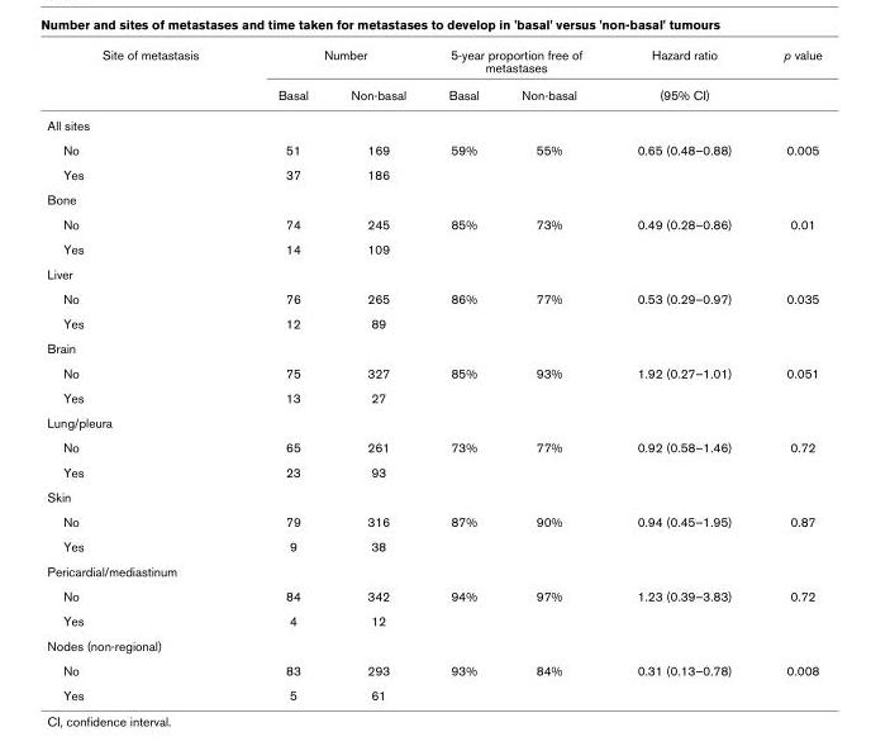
<table><thead><tr><td rowspan="2">Site of metastasis</td><td colspan="2">Number</td><td colspan="2">5-year proportion free of metastases</td><td rowspan="2">Hazard ratio (95% CI)</td><td rowspan="2">p value</td></tr><tr><td>Basal</td><td>Non-basal</td><td>Basal</td><td>Non-basal</td></tr></thead><tbody><tr><td colspan="7">All sites</td></tr><tr><td>No</td><td>51</td><td>169</td><td>59%</td><td>55%</td><td>0.65 (0.48–0.88)</td><td>0.005</td></tr><tr><td>Yes</td><td>37</td><td>186</td><td></td><td></td><td></td><td></td></tr><tr><td colspan="7">Bone</td></tr><tr><td>No</td><td>74</td><td>245</td><td>85%</td><td>73%</td><td>0.49 (0.28–0.86)</td><td>0.01</td></tr><tr><td>Yes</td><td>14</td><td>109</td><td></td><td></td><td></td><td></td></tr><tr><td colspan="7">Liver</td></tr><tr><td>No</td><td>76</td><td>265</td><td>86%</td><td>77%</td><td>0.53 (0.29–0.97)</td><td>0.035</td></tr><tr><td>Yes</td><td>12</td><td>89</td><td></td><td></td><td></td><td></td></tr><tr><td colspan="7">Brain</td></tr><tr><td>No</td><td>75</td><td>327</td><td>85%</td><td>93%</td><td>1.92 (0.27–1.01)</td><td>0.051</td></tr><tr><td>Yes</td><td>13</td><td>27</td><td></td><td></td><td></td><td></td></tr><tr><td colspan="7">Lung/pleura</td></tr><tr><td>No</td><td>65</td><td>261</td><td>73%</td><td>77%</td><td>0.92 (0.58–1.46)</td><td>0.72</td></tr><tr><td>Yes</td><td>23</td><td>93</td><td></td><td></td><td></td><td></td></tr><tr><td colspan="7">Skin</td></tr><tr><td>No</td><td>79</td><td>316</td><td>87%</td><td>90%</td><td>0.94 (0.45–1.95)</td><td>0.87</td></tr><tr><td>Yes</td><td>9</td><td>38</td><td></td><td></td><td></td><td></td></tr><tr><td colspan="7">Pericardial/mediastinum</td></tr><tr><td>No</td><td>84</td><td>342</td><td>94%</td><td>97%</td><td>1.23 (0.39–3.83)</td><td>0.72</td></tr><tr><td>Yes</td><td>4</td><td>12</td><td></td><td></td><td></td><td></td></tr><tr><td colspan="7">Nodes (non-regional)</td></tr><tr><td>No</td><td>83</td><td>293</td><td>93%</td><td>84%</td><td>0.31 (0.13–0.78)</td><td>0.008</td></tr><tr><td>Yes</td><td>5</td><td>61</td><td></td><td></td><td></td><td></td></tr></tbody></table>